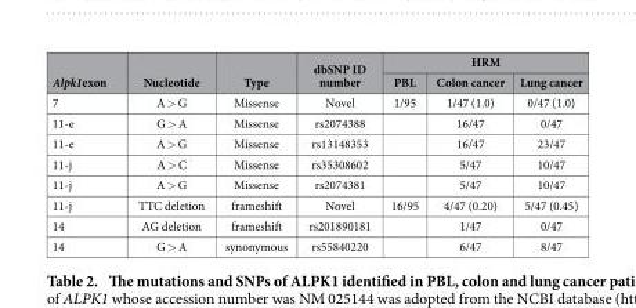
<table><thead><tr><td rowspan="2">Alpk1exon</td><td rowspan="2">Nucleotide</td><td rowspan="2">Type</td><td rowspan="2">dbSNP ID number</td><td colspan="3">HRM</td></tr><tr><td>PBL</td><td>Colon cancer</td><td>Lung cancer</td></tr></thead><tbody><tr><td>7</td><td>A &gt; G</td><td>Missense</td><td>Novel</td><td>1/95</td><td>1/47 (1.0)</td><td>0/47 (1.0)</td></tr><tr><td>11-e</td><td>G &gt; A</td><td>Missense</td><td>rs2074388</td><td></td><td>16/47</td><td>0/47</td></tr><tr><td>11-e</td><td>A &gt; G</td><td>Missense</td><td>rs13148353</td><td></td><td>16/47</td><td>23/47</td></tr><tr><td>11-j</td><td>A &gt; C</td><td>Missense</td><td>rs35308602</td><td></td><td>5/47</td><td>10/47</td></tr><tr><td>11-j</td><td>A &gt; G</td><td>Missense</td><td>rs2074381</td><td></td><td>5/47</td><td>10/47</td></tr><tr><td>11-j</td><td>TTC deletion</td><td>frameshift</td><td>Novel</td><td>16/95</td><td>4/47 (0.20)</td><td>5/47 (0.45)</td></tr><tr><td>14</td><td>AG deletion</td><td>frameshift</td><td>rs201890181</td><td></td><td>1/47</td><td>0/47</td></tr><tr><td>14</td><td>G &gt; A</td><td>synonymous</td><td>rs55840220</td><td></td><td>6/47</td><td>8/47</td></tr></tbody></table>